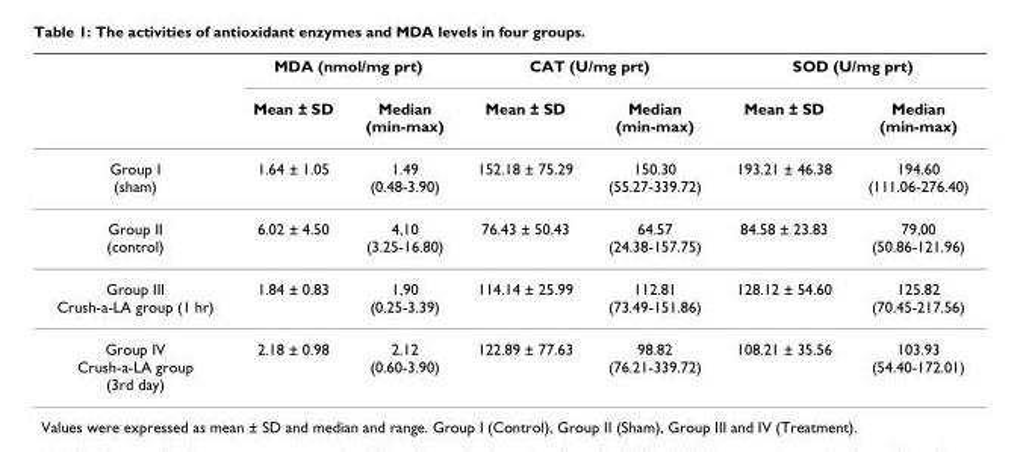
<table><thead><tr><td rowspan="2"></td><td colspan="2">MDA (nmol/mg prt)</td><td colspan="2">CAT (U/mg prt)</td><td colspan="2">SOD (U/mg prt)</td></tr><tr><td>Mean ± SD</td><td>Median (min-max)</td><td>Mean ± SD</td><td>Median (min-max)</td><td>Mean ± SD</td><td>Median (min-max)</td></tr></thead><tbody><tr><td>Group I (sham)</td><td>1.64 ± 1.05</td><td>1.49 (0.48-3.90)</td><td>152.18 ± 75.29</td><td>150.30 (55.27-339.72)</td><td>193.21 ± 46.38</td><td>194.60 (111.06-276.40)</td></tr><tr><td>Group II (control)</td><td>6.02 ± 4.50</td><td>4,10 (3.25-16.80)</td><td>76.43 ± 50.43</td><td>64.57 (24.38-157.75)</td><td>84.58 ± 23.83</td><td>79,00 (50.86-121.96)</td></tr><tr><td>Group III Crush-a-LA group (1 hr)</td><td>1.84 ± 0.83</td><td>1,90 (0.25-3.39)</td><td>114.14 ± 25.99</td><td>112.81 (73.49-151.86)</td><td>128.12 ± 54.60</td><td>125.82 (70.45-217.56)</td></tr><tr><td>Group IV Crush-a-LA group (3rd day)</td><td>2.18 ± 0.98</td><td>2.12 (0.60-3.90)</td><td>122.89 ± 77.63</td><td>98.82 (76.21-339.72)</td><td>108.21 ± 35.56</td><td>103.93 (54.40-172.01)</td></tr></tbody></table>